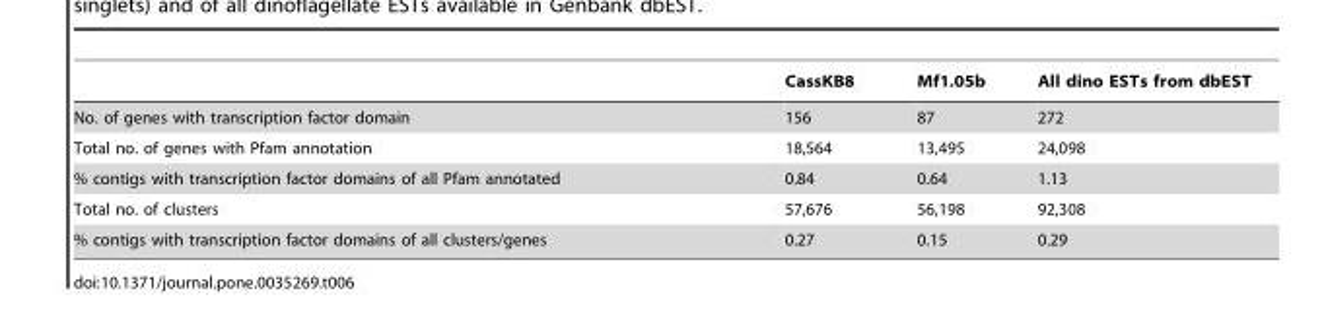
<table><thead><tr><td></td><td>CassKB8</td><td>Mf1.05b</td><td>All dino ESTs from dbEST</td></tr></thead><tbody><tr><td>No. of genes with transcription factor domain</td><td>156</td><td>87</td><td>272</td></tr><tr><td>Total no. of genes with Pfam annotation</td><td>18,564</td><td>13,495</td><td>24,098</td></tr><tr><td>% contigs with transcription factor domains of all Pfam annotated</td><td>0.84</td><td>0.64</td><td>1.13</td></tr><tr><td>Total no. of clusters</td><td>57,676</td><td>56,198</td><td>92,308</td></tr><tr><td>% contigs with transcription factor domains of all clusters/genes</td><td>0.27</td><td>0.15</td><td>0.29</td></tr></tbody></table>